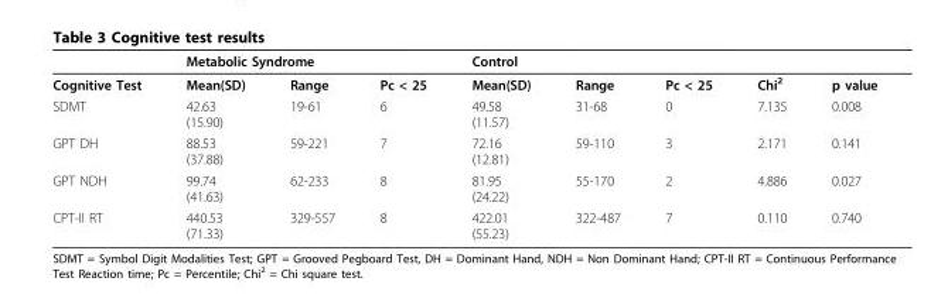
<table><thead><tr><td rowspan="2">Cognitive Test</td><td colspan="3">Metabolic Syndrome</td><td colspan="3">Control</td><td rowspan="2">Chi<sup>2</sup></td><td rowspan="2">p value</td></tr><tr><td>Mean(SD)</td><td>Range</td><td>Pc &lt; 25</td><td>Mean(SD)</td><td>Range</td><td>Pc &lt; 25</td></tr></thead><tbody><tr><td>SDMT</td><td>42.63 (15.90)</td><td>19-61</td><td>6</td><td>49.58 (11.57)</td><td>31-68</td><td>0</td><td>7.135</td><td>0.008</td></tr><tr><td>GPT DH</td><td>88.53 (37.88)</td><td>59-221</td><td>7</td><td>72.16 (12.81)</td><td>59-110</td><td>3</td><td>2.171</td><td>0.141</td></tr><tr><td>GPT NDH</td><td>99.74 (41.63)</td><td>62-233</td><td>8</td><td>81.95 (24.22)</td><td>55-170</td><td>2</td><td>4.886</td><td>0.027</td></tr><tr><td>CPT-II RT</td><td>440.53 (71.33)</td><td>329-557</td><td>8</td><td>422.01 (55.23)</td><td>322-487</td><td>7</td><td>0.110</td><td>0.740</td></tr></tbody></table>